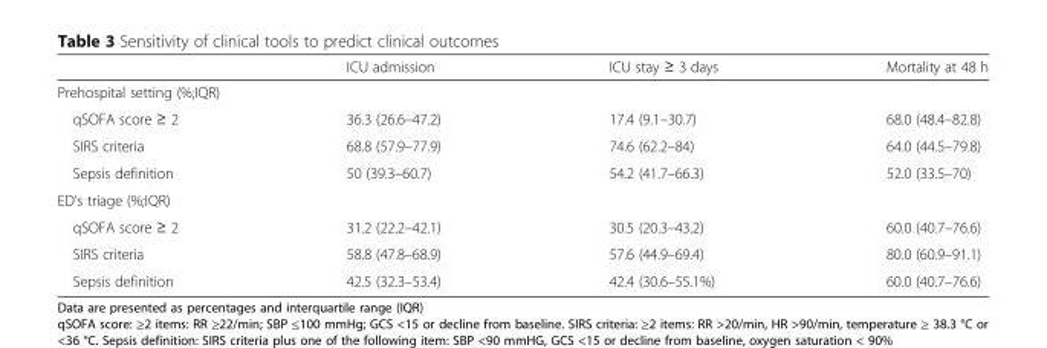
<table><thead><tr><td></td><td>ICU admission</td><td>ICU stay ≥ 3 days</td><td>Mortality at 48 h</td></tr></thead><tbody><tr><td colspan="4">Prehospital setting (%;IQR)</td></tr><tr><td>qSOFA score ≥ 2</td><td>36.3 (26.6–47.2)</td><td>17.4 (9.1–30.7)</td><td>68.0 (48.4–82.8)</td></tr><tr><td>SIRS criteria</td><td>68.8 (57.9–77.9)</td><td>74.6 (62.2–84)</td><td>64.0 (44.5–79.8)</td></tr><tr><td>Sepsis definition</td><td>50 (39.3–60.7)</td><td>54.2 (41.7–66.3)</td><td>52.0 (33.5–70)</td></tr><tr><td colspan="4">ED’s triage (%;IQR)</td></tr><tr><td>qSOFA score ≥ 2</td><td>31.2 (22.2–42.1)</td><td>30.5 (20.3–43.2)</td><td>60.0 (40.7–76.6)</td></tr><tr><td>SIRS criteria</td><td>58.8 (47.8–68.9)</td><td>57.6 (44.9–69.4)</td><td>80.0 (60.9–91.1)</td></tr><tr><td>Sepsis definition</td><td>42.5 (32.3–53.4)</td><td>42.4 (30.6–55.1%)</td><td>60.0 (40.7–76.6)</td></tr></tbody></table>